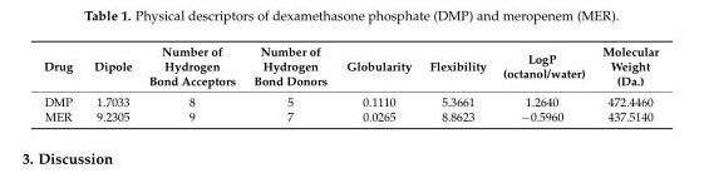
<table><thead><tr><td>Drug</td><td>Dipole</td><td>Number of Hydrogen Bond Acceptors</td><td>Number of Hydrogen Bond Donors</td><td>Globularity</td><td>Flexibility</td><td>LogP (octanol/water)</td><td>Molecular Weight (Da.)</td></tr></thead><tbody><tr><td>DMP</td><td>1.7033</td><td>8</td><td>5</td><td>0.1110</td><td>5.3661</td><td>1.2640</td><td>472.4460</td></tr><tr><td>MER</td><td>9.2305</td><td>9</td><td>7</td><td>0.0265</td><td>8.8623</td><td>−0.5960</td><td>437.5140</td></tr></tbody></table>